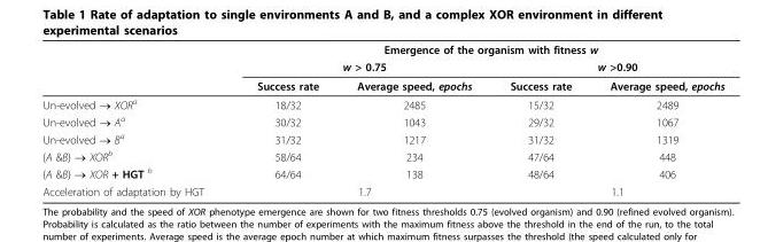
<table><thead><tr><td rowspan="3"></td><td colspan="4">Emergence of the organism with fitness w</td></tr><tr><td colspan="2">w &gt; 0.75</td><td colspan="2">w &gt;0.90</td></tr><tr><td>Success rate</td><td>Average speed, epochs</td><td>Success rate</td><td>Average speed, epochs</td></tr></thead><tbody><tr><td>Un-evolved → XOR<sup>a</sup></td><td>18/32</td><td>2485</td><td>15/32</td><td>2489</td></tr><tr><td>Un-evolved → A<sup>a</sup></td><td>30/32</td><td>1043</td><td>29/32</td><td>1067</td></tr><tr><td>Un-evolved → B<sup>a</sup></td><td>31/32</td><td>1217</td><td>31/32</td><td>1319</td></tr><tr><td>{A &amp;B} → XOR<sup>b</sup></td><td>58/64</td><td>234</td><td>47/64</td><td>448</td></tr><tr><td>{A &amp;B} → XOR + HGT <sup>b</sup></td><td>64/64</td><td>138</td><td>48/64</td><td>406</td></tr><tr><td>Acceleration of adaptation by HGT</td><td colspan="2">1.7</td><td colspan="2">1.1</td></tr></tbody></table>